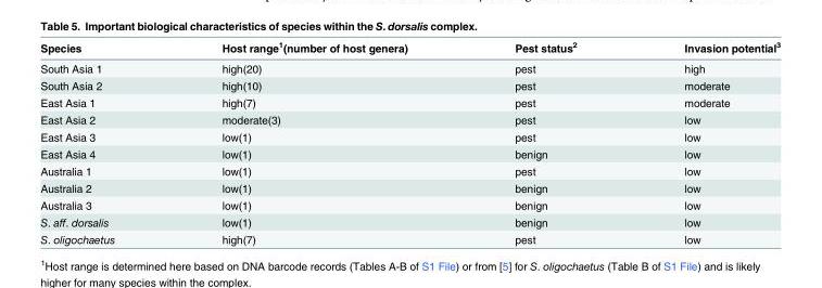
<table><thead><tr><td>Species</td><td>Host range<sup>1</sup>(number of host genera)</td><td>Pest status<sup>2</sup></td><td>Invasion potential<sup>3</sup></td></tr></thead><tbody><tr><td>South Asia 1</td><td>high(20)</td><td>pest</td><td>high</td></tr><tr><td>South Asia 2</td><td>high(10)</td><td>pest</td><td>moderate</td></tr><tr><td>East Asia 1</td><td>high(7)</td><td>pest</td><td>moderate</td></tr><tr><td>East Asia 2</td><td>moderate(3)</td><td>pest</td><td>low</td></tr><tr><td>East Asia 3</td><td>low(1)</td><td>pest</td><td>low</td></tr><tr><td>East Asia 4</td><td>low(1)</td><td>benign</td><td>low</td></tr><tr><td>Australia 1</td><td>low(1)</td><td>pest</td><td>low</td></tr><tr><td>Australia 2</td><td>low(1)</td><td>benign</td><td>low</td></tr><tr><td>Australia 3</td><td>low(1)</td><td>benign</td><td>low</td></tr><tr><td>S. aff. dorsalis</td><td>low(1)</td><td>benign</td><td>low</td></tr><tr><td>S. oligochaetus</td><td>high(7)</td><td>pest</td><td>low</td></tr></tbody></table>